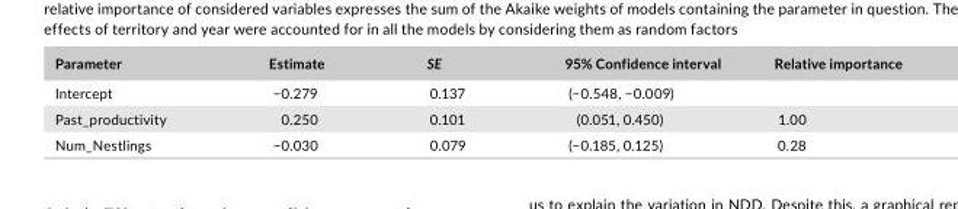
<table><thead><tr><td>Parameter</td><td>Estimate</td><td>SE</td><td>95% Confidence interval</td><td>Relative importance</td></tr></thead><tbody><tr><td>Intercept</td><td>−0.279</td><td>0.137</td><td>(−0.548, −0.009)</td><td></td></tr><tr><td>Past_productivity</td><td>0.250</td><td>0.101</td><td>(0.051, 0.450)</td><td>1.00</td></tr><tr><td>Num_Nestlings</td><td>−0.030</td><td>0.079</td><td>(−0.185, 0.125)</td><td>0.28</td></tr></tbody></table>